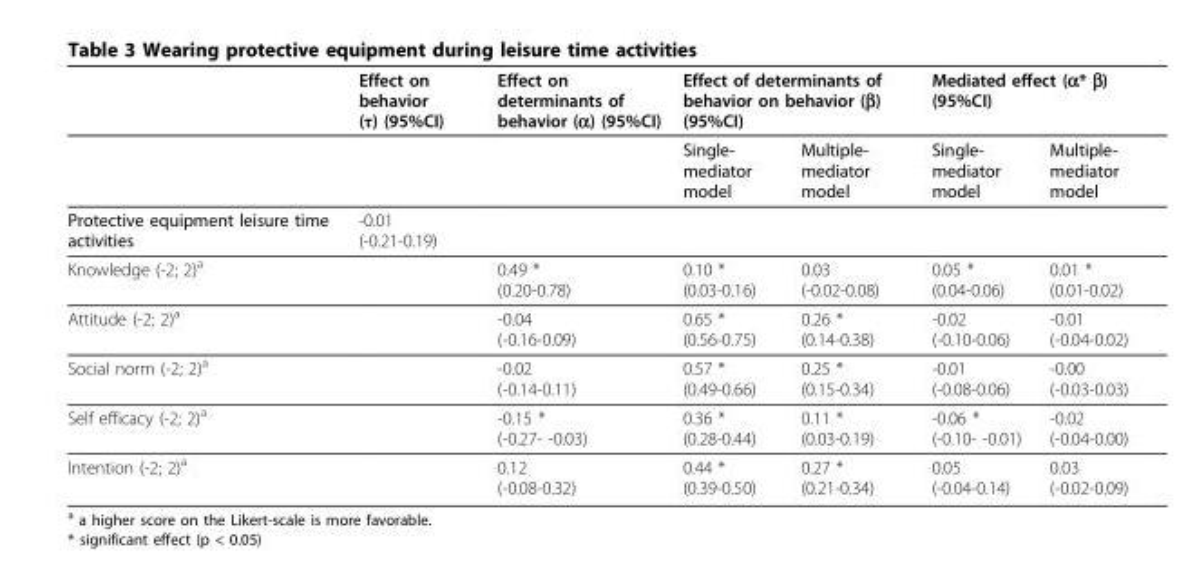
<table><thead><tr><td rowspan="2"></td><td rowspan="2">Effect on behavior (τ) (95%CI)</td><td rowspan="2">Effect on determinants of behavior (α) (95%CI)</td><td colspan="2">Effect of determinants of behavior on behavior (β) (95%CI)</td><td colspan="2">Mediated effect (α* β) (95%CI)</td></tr><tr><td>Single- mediator model</td><td>Multiple- mediator model</td><td>Single- mediator model</td><td>Multiple- mediator model</td></tr></thead><tbody><tr><td>Protective equipment leisure time activities</td><td>-0.01 (-0.21-0.19)</td><td></td><td></td><td></td><td></td><td></td></tr><tr><td>Knowledge (-2; 2)a</td><td></td><td>0.49 * (0.20-0.78)</td><td>0.10 * (0.03-0.16)</td><td>0.03 (-0.02-0.08)</td><td>0.05 * (0.04-0.06)</td><td>0.01 * (0.01-0.02)</td></tr><tr><td>Attitude (-2; 2)a</td><td></td><td>-0.04 (-0.16-0.09)</td><td>0.65 * (0.56-0.75)</td><td>0.26 * (0.14-0.38)</td><td>-0.02 (-0.10-0.06)</td><td>-0.01 (-0.04-0.02)</td></tr><tr><td>Social norm (-2; 2)a</td><td></td><td>-0.02 (-0.14-0.11)</td><td>0.57 * (0.49-0.66)</td><td>0.25 * (0.15-0.34)</td><td>-0.01 (-0.08-0.06)</td><td>-0.00 (-0.03-0.03)</td></tr><tr><td>Self efficacy (-2; 2)a</td><td></td><td>-0.15 * (-0.27- -0.03)</td><td>0.36 * (0.28-0.44)</td><td>0.11 * (0.03-0.19)</td><td>-0.06 * (-0.10- -0.01)</td><td>-0.02 (-0.04-0.00)</td></tr><tr><td>Intention (-2; 2)a</td><td></td><td>0.12 (-0.08-0.32)</td><td>0.44 * (0.39-0.50)</td><td>0.27 * (0.21-0.34)</td><td>0.05 (-0.04-0.14)</td><td>0.03 (-0.02-0.09)</td></tr></tbody></table>